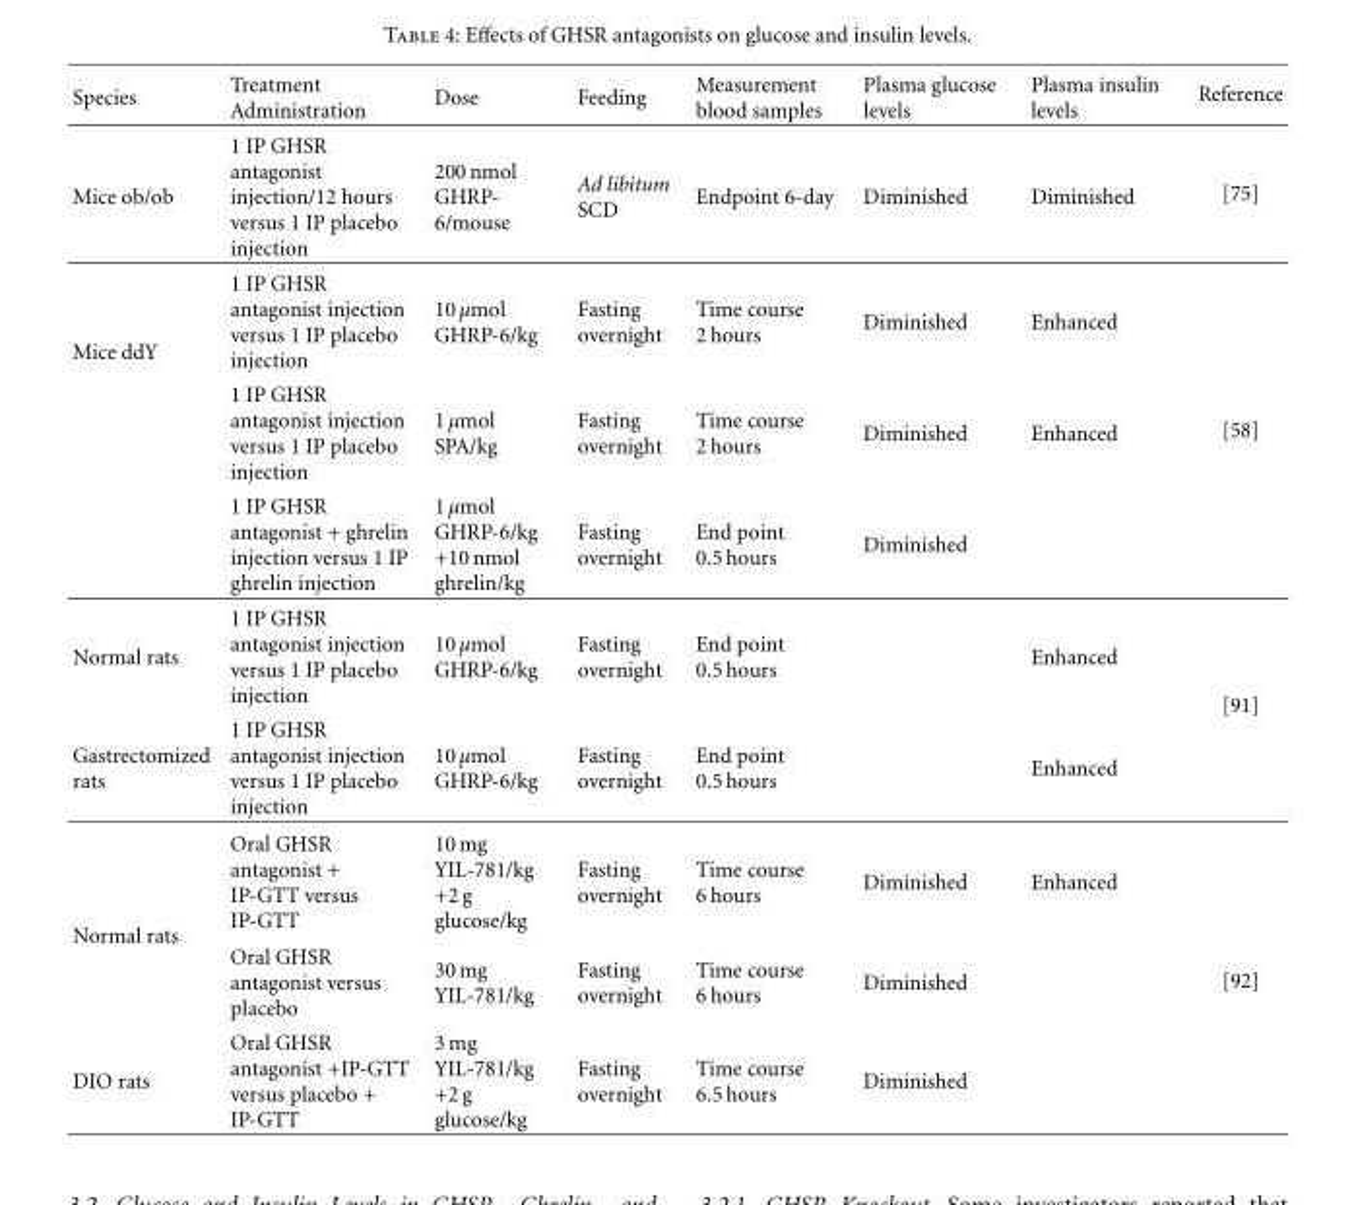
<table><thead><tr><td>Species</td><td>Treatment Administration</td><td>Dose</td><td>Feeding</td><td>Measurement blood samples</td><td>Plasma glucose levels</td><td>Plasma insulin levels</td><td>Reference</td></tr></thead><tbody><tr><td>Mice ob/ob</td><td>1 IP GHSR antagonist injection/12 hours versus 1 IP placebo injection</td><td>200 nmol GHRP- 6/mouse</td><td>Ad libitum SCD</td><td>Endpoint 6-day</td><td>Diminished</td><td>Diminished</td><td>[75]</td></tr><tr><td rowspan="3">Mice ddY</td><td>1 IP GHSR antagonist injection versus 1 IP placebo injection</td><td>10 μmol GHRP-6/kg</td><td>Fasting overnight</td><td>Time course 2 hours</td><td>Diminished</td><td>Enhanced</td><td></td></tr><tr><td>1 IP GHSR antagonist injection versus 1 IP placebo injection</td><td>1 μmol SPA/kg</td><td>Fasting overnight</td><td>Time course 2 hours</td><td>Diminished</td><td>Enhanced</td><td>[58]</td></tr><tr><td>1 IP GHSR antagonist + ghrelin injection versus 1 IP ghrelin injection</td><td>1 μmol GHRP-6/kg +10 nmol ghrelin/kg</td><td>Fasting overnight</td><td>End point 0.5 hours</td><td>Diminished</td><td></td><td></td></tr><tr><td>Normal rats</td><td>1 IP GHSR antagonist injection versus 1 IP placebo injection</td><td>10 μmol GHRP-6/kg</td><td>Fasting overnight</td><td>End point 0.5 hours</td><td></td><td>Enhanced</td><td rowspan="2">[91]</td></tr><tr><td>Gastrectomized rats</td><td>1 IP GHSR antagonist injection versus 1 IP placebo injection</td><td>10 μmol GHRP-6/kg</td><td>Fasting overnight</td><td>End point 0.5 hours</td><td></td><td>Enhanced</td></tr><tr><td rowspan="2">Normal rats</td><td>Oral GHSR antagonist + IP-GTT versus IP-GTT</td><td>10 mg YIL-781/kg +2 g glucose/kg</td><td>Fasting overnight</td><td>Time course 6 hours</td><td>Diminished</td><td>Enhanced</td><td rowspan="3">[92]</td></tr><tr><td>Oral GHSR antagonist versus placebo</td><td>30 mg YIL-781/kg</td><td>Fasting overnight</td><td>Time course 6 hours</td><td>Diminished</td><td></td></tr><tr><td>DIO rats</td><td>Oral GHSR antagonist +IP-GTT versus placebo + IP-GTT</td><td>3 mg YIL-781/kg +2 g glucose/kg</td><td>Fasting overnight</td><td>Time course 6.5 hours</td><td>Diminished</td><td></td></tr></tbody></table>